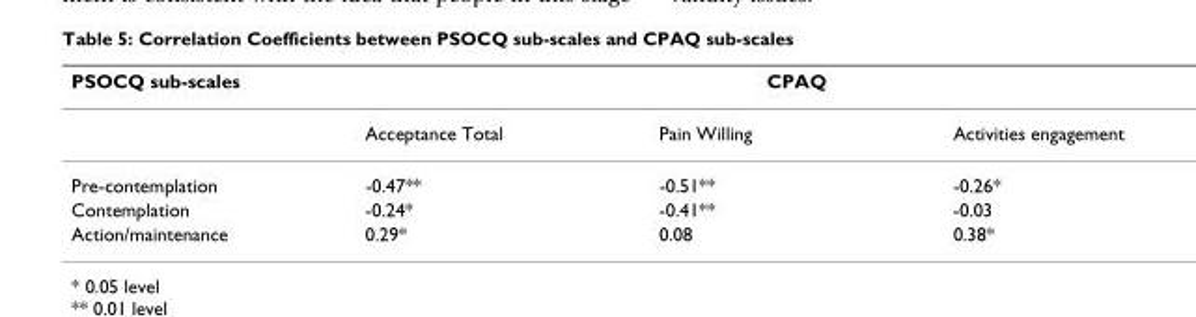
<table><thead><tr><td rowspan="2">PSOCQ sub-scales</td><td colspan="3">CPAQ</td></tr><tr><td>Acceptance Total</td><td>Pain Willing</td><td>Activities engagement</td></tr></thead><tbody><tr><td>Pre-contemplation</td><td>-0.47**</td><td>-0.51**</td><td>-0.26*</td></tr><tr><td>Contemplation</td><td>-0.24*</td><td>-0.41**</td><td>-0.03</td></tr><tr><td>Action/maintenance</td><td>0.29*</td><td>0.08</td><td>0.38*</td></tr></tbody></table>